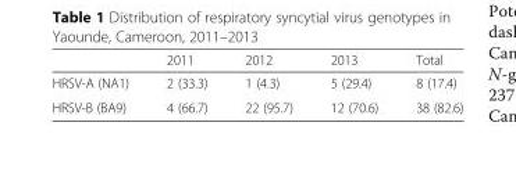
<table><thead><tr><td></td><td>2011</td><td>2012</td><td>2013</td><td>Total</td></tr></thead><tbody><tr><td>HRSV-A (NA1)</td><td>2 (33.3)</td><td>1 (4.3)</td><td>5 (29.4)</td><td>8 (17.4)</td></tr><tr><td>HRSV-B (BA9)</td><td>4 (66.7)</td><td>22 (95.7)</td><td>12 (70.6)</td><td>38 (82.6)</td></tr></tbody></table>